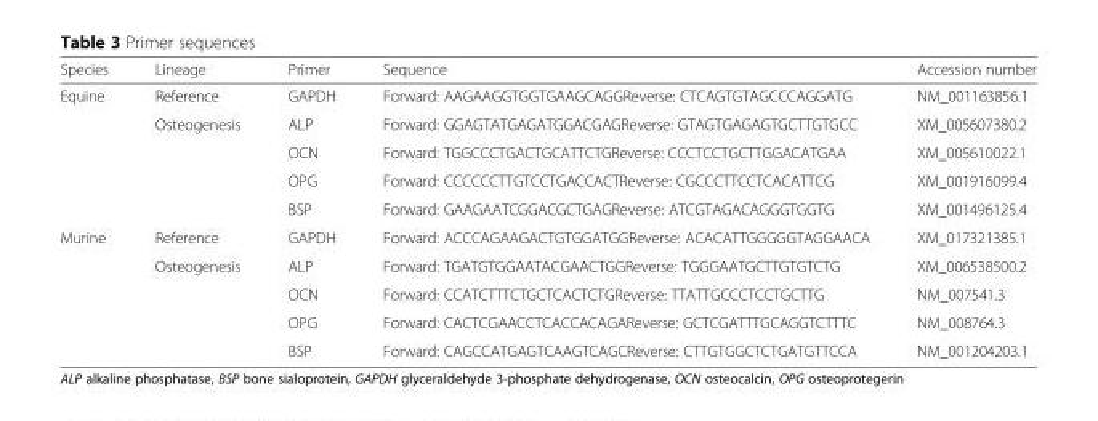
<table><thead><tr><td>Species</td><td>Lineage</td><td>Primer</td><td>Sequence</td><td>Accession number</td></tr></thead><tbody><tr><td rowspan="5">Equine</td><td>Reference</td><td>GAPDH</td><td>Forward: AAGAAGGTGGTGAAGCAGGReverse: CTCAGTGTAGCCCAGGATG</td><td>NM_001163856.1</td></tr><tr><td rowspan="4">Osteogenesis</td><td>ALP</td><td>Forward: GGAGTATGAGATGGACGAGReverse: GTAGTGAGAGTGCTTGTGCC</td><td>XM_005607380.2</td></tr><tr><td>OCN</td><td>Forward: TGGCCCTGACTGCATTCTGReverse: CCCTCCTGCTTGGACATGAA</td><td>XM_005610022.1</td></tr><tr><td>OPG</td><td>Forward: CCCCCCTTGTCCTGACCACTReverse: CGCCCTTCCTCACATTCG</td><td>XM_001916099.4</td></tr><tr><td>BSP</td><td>Forward: GAAGAATCGGACGCTGAGReverse: ATCGTAGACAGGGTGGTG</td><td>XM_001496125.4</td></tr><tr><td rowspan="5">Murine</td><td>Reference</td><td>GAPDH</td><td>Forward: ACCCAGAAGACTGTGGATGGReverse: ACACATTGGGGGTAGGAACA</td><td>XM_017321385.1</td></tr><tr><td rowspan="4">Osteogenesis</td><td>ALP</td><td>Forward: TGATGTGGAATACGAACTGGReverse: TGGGAATGCTTGTGTCTG</td><td>XM_006538500.2</td></tr><tr><td>OCN</td><td>Forward: CCATCTTTCTGCTCACTCTGReverse: TTATTGCCCTCCTGCTTG</td><td>NM_007541.3</td></tr><tr><td>OPG</td><td>Forward: CACTCGAACCTCACCACAGAReverse: GCTCGATTTGCAGGTCTTTC</td><td>NM_008764.3</td></tr><tr><td>BSP</td><td>Forward: CAGCCATGAGTCAAGTCAGCReverse: CTTGTGGCTCTGATGTTCCA</td><td>NM_001204203.1</td></tr></tbody></table>